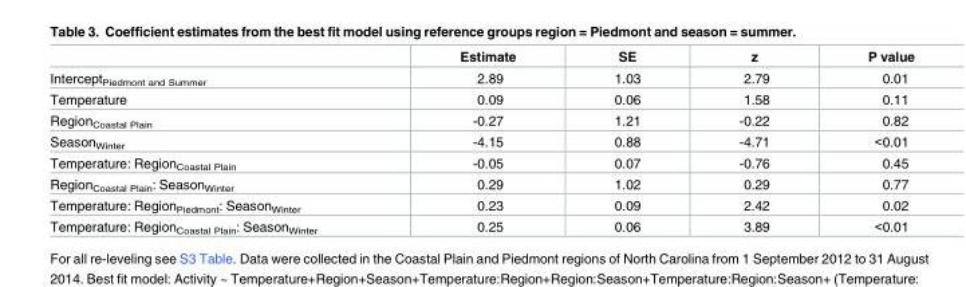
<table><thead><tr><td></td><td>Estimate</td><td>SE</td><td>z</td><td>P value</td></tr></thead><tbody><tr><td>Intercept<sub>Piedmont and Summer</sub></td><td>2.89</td><td>1.03</td><td>2.79</td><td>0.01</td></tr><tr><td>Temperature</td><td>0.09</td><td>0.06</td><td>1.58</td><td>0.11</td></tr><tr><td>Region<sub>Coastal Plain</sub></td><td>-0.27</td><td>1.21</td><td>-0.22</td><td>0.82</td></tr><tr><td>Season<sub>Winter</sub></td><td>-4.15</td><td>0.88</td><td>-4.71</td><td>&lt;0.01</td></tr><tr><td>Temperature: Region<sub>Coastal Plain</sub></td><td>-0.05</td><td>0.07</td><td>-0.76</td><td>0.45</td></tr><tr><td>Region<sub>Coastal Plain</sub>: Season<sub>Winter</sub></td><td>0.29</td><td>1.02</td><td>0.29</td><td>0.77</td></tr><tr><td>Temperature: Region<sub>Piedmont</sub>: Season<sub>Winter</sub></td><td>0.23</td><td>0.09</td><td>2.42</td><td>0.02</td></tr><tr><td>Temperature: Region<sub>Coastal Plain</sub>: Season<sub>Winter</sub></td><td>0.25</td><td>0.06</td><td>3.89</td><td>&lt;0.01</td></tr></tbody></table>